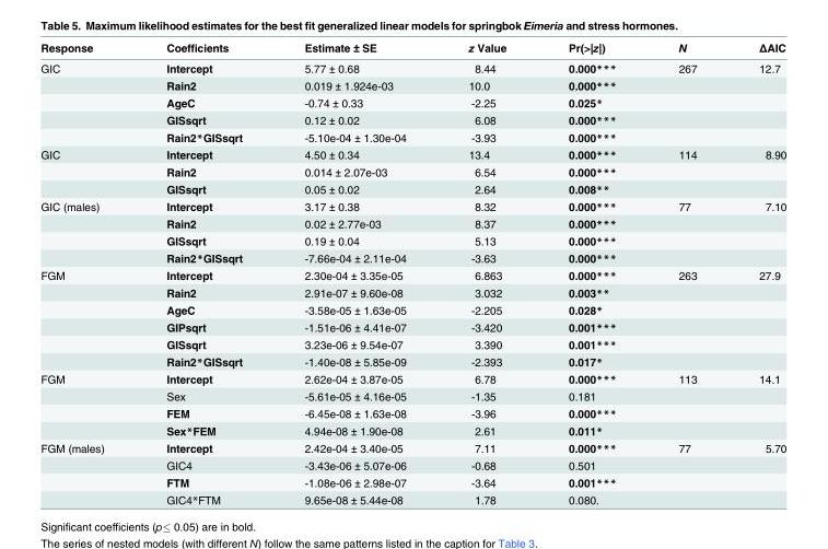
<table><thead><tr><td>Response</td><td>Coefficients</td><td>Estimate ± SE</td><td>z Value</td><td>Pr(&gt;|z|)</td><td>N</td><td>ΔAIC</td></tr></thead><tbody><tr><td rowspan="5">GIC</td><td>Intercept</td><td>5.77 ± 0.68</td><td>8.44</td><td>0.000***</td><td>267</td><td>12.7</td></tr><tr><td>Rain2</td><td>0.019 ± 1.924e-03</td><td>10.0</td><td>0.000***</td><td></td><td></td></tr><tr><td>AgeC</td><td>-0.74 ± 0.33</td><td>-2.25</td><td>0.025*</td><td></td><td></td></tr><tr><td>GISsqrt</td><td>0.12 ± 0.02</td><td>6.08</td><td>0.000***</td><td></td><td></td></tr><tr><td>Rain2*GISsqrt</td><td>-5.10e-04 ± 1.30e-04</td><td>-3.93</td><td>0.000***</td><td></td><td></td></tr><tr><td rowspan="3">GIC</td><td>Intercept</td><td>4.50 ± 0.34</td><td>13.4</td><td>0.000***</td><td>114</td><td>8.90</td></tr><tr><td>Rain2</td><td>0.014 ± 2.07e-03</td><td>6.54</td><td>0.000***</td><td></td><td></td></tr><tr><td>GISsqrt</td><td>0.05 ± 0.02</td><td>2.64</td><td>0.008**</td><td></td><td></td></tr><tr><td rowspan="4">GIC (males)</td><td>Intercept</td><td>3.17 ± 0.38</td><td>8.32</td><td>0.000***</td><td>77</td><td>7.10</td></tr><tr><td>Rain2</td><td>0.02 ± 2.77e-03</td><td>8.37</td><td>0.000***</td><td></td><td></td></tr><tr><td>GISsqrt</td><td>0.19 ± 0.04</td><td>5.13</td><td>0.000***</td><td></td><td></td></tr><tr><td>Rain2*GISsqrt</td><td>-7.66e-04 ± 2.11e-04</td><td>-3.63</td><td>0.000***</td><td></td><td></td></tr><tr><td rowspan="6">FGM</td><td>Intercept</td><td>2.30e-04 ± 3.35e-05</td><td>6.863</td><td>0.000***</td><td>263</td><td>27.9</td></tr><tr><td>Rain2</td><td>2.91e-07 ± 9.60e-08</td><td>3.032</td><td>0.003**</td><td></td><td></td></tr><tr><td>AgeC</td><td>-3.58e-05 ± 1.63e-05</td><td>-2.205</td><td>0.028*</td><td></td><td></td></tr><tr><td>GIPsqrt</td><td>-1.51e-06 ± 4.41e-07</td><td>-3.420</td><td>0.001***</td><td></td><td></td></tr><tr><td>GISsqrt</td><td>3.23e-06 ± 9.54e-07</td><td>3.390</td><td>0.001***</td><td></td><td></td></tr><tr><td>Rain2*GISsqrt</td><td>-1.40e-08 ± 5.85e-09</td><td>-2.393</td><td>0.017*</td><td></td><td></td></tr><tr><td rowspan="4">FGM</td><td>Intercept</td><td>2.62e-04 ± 3.87e-05</td><td>6.78</td><td>0.000***</td><td>113</td><td>14.1</td></tr><tr><td>Sex</td><td>-5.61e-05 ± 4.16e-05</td><td>-1.35</td><td>0.181</td><td></td><td></td></tr><tr><td>FEM</td><td>-6.45e-08 ± 1.63e-08</td><td>-3.96</td><td>0.000***</td><td></td><td></td></tr><tr><td>Sex*FEM</td><td>4.94e-08 ± 1.90e-08</td><td>2.61</td><td>0.011*</td><td></td><td></td></tr><tr><td rowspan="4">FGM (males)</td><td>Intercept</td><td>2.42e-04 ± 3.40e-05</td><td>7.11</td><td>0.000***</td><td>77</td><td>5.70</td></tr><tr><td>GIC4</td><td>-3.43e-06 ± 5.07e-06</td><td>-0.68</td><td>0.501</td><td></td><td></td></tr><tr><td>FTM</td><td>-1.08e-06 ± 2.98e-07</td><td>-3.64</td><td>0.001***</td><td></td><td></td></tr><tr><td>GIC4*FTM</td><td>9.65e-08 ± 5.44e-08</td><td>1.78</td><td>0.080.</td><td></td><td></td></tr></tbody></table>